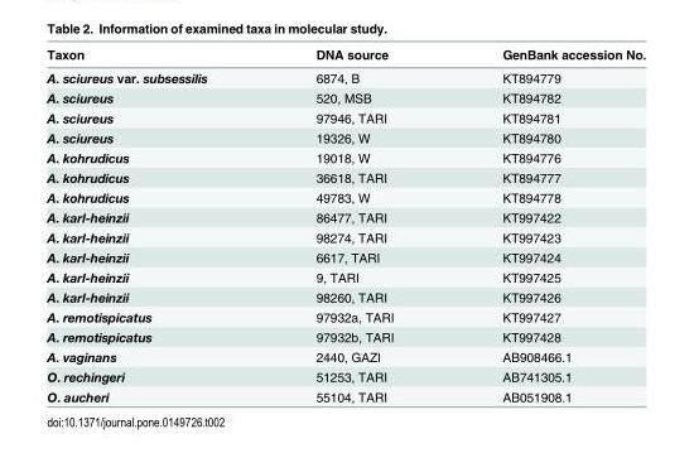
<table><thead><tr><td>Taxon</td><td>DNA source</td><td>GenBank accession No.</td></tr></thead><tbody><tr><td>A. sciureus var. subsessilis</td><td>6874, B</td><td>KT894779</td></tr><tr><td>A. sciureus</td><td>520, MSB</td><td>KT894782</td></tr><tr><td>A. sciureus</td><td>97946, TARI</td><td>KT894781</td></tr><tr><td>A. sciureus</td><td>19326, W</td><td>KT894780</td></tr><tr><td>A. kohrudicus</td><td>19018, W</td><td>KT894776</td></tr><tr><td>A. kohrudicus</td><td>36618, TARI</td><td>KT894777</td></tr><tr><td>A. kohrudicus</td><td>49783, W</td><td>KT894778</td></tr><tr><td>A. karl-heinzii</td><td>86477, TARI</td><td>KT997422</td></tr><tr><td>A. karl-heinzii</td><td>98274, TARI</td><td>KT997423</td></tr><tr><td>A. karl-heinzii</td><td>6617, TARI</td><td>KT997424</td></tr><tr><td>A. karl-heinzii</td><td>9, TARI</td><td>KT997425</td></tr><tr><td>A. karl-heinzii</td><td>98260, TARI</td><td>KT997426</td></tr><tr><td>A. remotispicatus</td><td>97932a, TARI</td><td>KT997427</td></tr><tr><td>A. remotispicatus</td><td>97932b, TARI</td><td>KT997428</td></tr><tr><td>A. vaginans</td><td>2440, GAZI</td><td>AB908466.1</td></tr><tr><td>O. rechingeri</td><td>51253, TARI</td><td>AB741305.1</td></tr><tr><td>O. aucheri</td><td>55104, TARI</td><td>AB051908.1</td></tr></tbody></table>